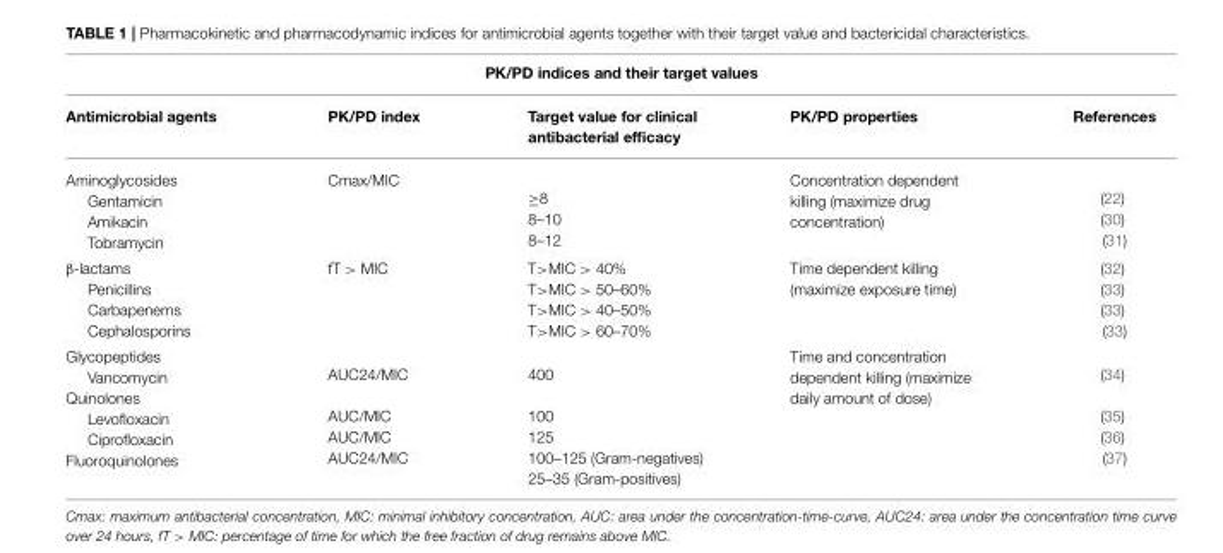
<table><thead><tr><td colspan="5">PK/PD indices and their target values</td></tr><tr><td>Antimicrobial agents</td><td>PK/PD index</td><td>Target value for clinical antibacterial efficacy</td><td>PK/PD properties</td><td>References</td></tr></thead><tbody><tr><td>Aminoglycosides Gentamicin Amikacin Tobramycin</td><td>Cmax/MIC</td><td>≥8 8–10 8–12</td><td>Concentration dependent killing (maximize drug concentration)</td><td>(22) (30) (31)</td></tr><tr><td>β-lactams Penicillins Carbapenems Cephalosporins</td><td>fT &gt; MIC</td><td>T&gt;MIC &gt; 40% T&gt;MIC &gt; 50–60% T&gt;MIC &gt; 40–50% T&gt;MIC &gt; 60–70%</td><td>Time dependent killing (maximize exposure time)</td><td>(32) (33) (33) (33)</td></tr><tr><td>Glycopeptides Vancomycin Quinolones Levofloxacin Ciprofloxacin Fluoroquinolones</td><td>AUC24/MIC AUC/MIC AUC/MIC AUC24/MIC</td><td>400 100 125 100–125 (Gram-negatives) 25–35 (Gram-positives)</td><td>Time and concentration dependent killing (maximize daily amount of dose)</td><td>(34) (35) (36) (37)</td></tr></tbody></table>